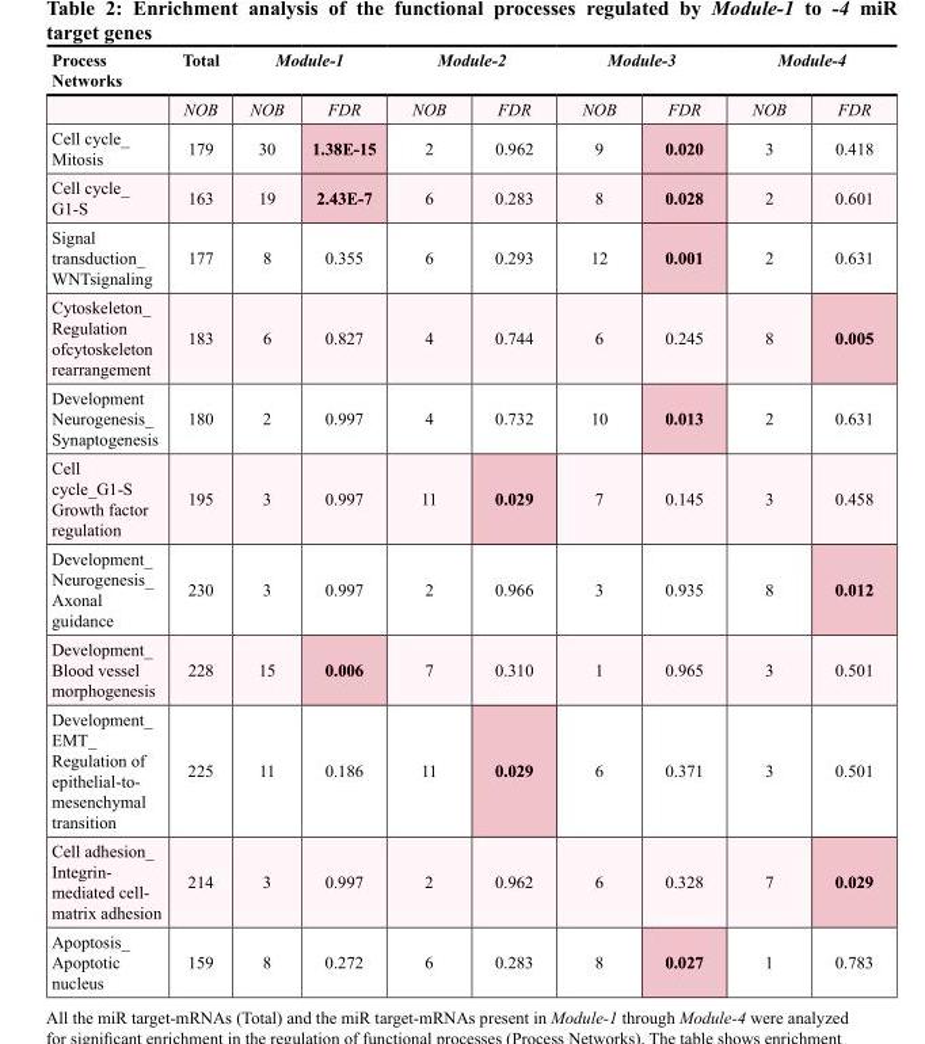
<table><thead><tr><td rowspan="2">Process Networks</td><td rowspan="2">Total NOB</td><td colspan="2">Module-1</td><td colspan="2">Module-2</td><td colspan="2">Module-3</td><td colspan="2">Module-4</td></tr><tr><td>NOB</td><td>FDR</td><td>NOB</td><td>FDR</td><td>NOB</td><td>FDR</td><td>NOB</td><td>FDR</td></tr></thead><tbody><tr><td>Cell cycle_ Mitosis</td><td>179</td><td>30</td><td>1.38E-15</td><td>2</td><td>0.962</td><td>9</td><td>0.020</td><td>3</td><td>0.418</td></tr><tr><td>Cell cycle_ G1-S</td><td>163</td><td>19</td><td>2.43E-7</td><td>6</td><td>0.283</td><td>8</td><td>0.028</td><td>2</td><td>0.601</td></tr><tr><td>Signal transduction_ WNTsignaling</td><td>177</td><td>8</td><td>0.355</td><td>6</td><td>0.293</td><td>12</td><td>0.001</td><td>2</td><td>0.631</td></tr><tr><td>Cytoskeleton_ Regulation ofcytoskeleton rearrangement</td><td>183</td><td>6</td><td>0.827</td><td>4</td><td>0.744</td><td>6</td><td>0.245</td><td>8</td><td>0.005</td></tr><tr><td>Development Neurogenesis_ Synaptogenesis</td><td>180</td><td>2</td><td>0.997</td><td>4</td><td>0.732</td><td>10</td><td>0.013</td><td>2</td><td>0.631</td></tr><tr><td>Cell cycle_G1-S Growth factor regulation</td><td>195</td><td>3</td><td>0.997</td><td>11</td><td>0.029</td><td>7</td><td>0.145</td><td>3</td><td>0.458</td></tr><tr><td>Development_ Neurogenesis_ Axonal guidance</td><td>230</td><td>3</td><td>0.997</td><td>2</td><td>0.966</td><td>3</td><td>0.935</td><td>8</td><td>0.012</td></tr><tr><td>Development_ Blood vessel morphogenesis</td><td>228</td><td>15</td><td>0.006</td><td>7</td><td>0.310</td><td>1</td><td>0.965</td><td>3</td><td>0.501</td></tr><tr><td>Development_ EMT_ Regulation of epithelial-to- mesenchymal transition</td><td>225</td><td>11</td><td>0.186</td><td>11</td><td>0.029</td><td>6</td><td>0.371</td><td>3</td><td>0.501</td></tr><tr><td>Cell adhesion_ Integrin- mediated cell- matrix adhesion</td><td>214</td><td>3</td><td>0.997</td><td>2</td><td>0.962</td><td>6</td><td>0.328</td><td>7</td><td>0.029</td></tr><tr><td>Apoptosis_ Apoptotic nucleus</td><td>159</td><td>8</td><td>0.272</td><td>6</td><td>0.283</td><td>8</td><td>0.027</td><td>1</td><td>0.783</td></tr></tbody></table>